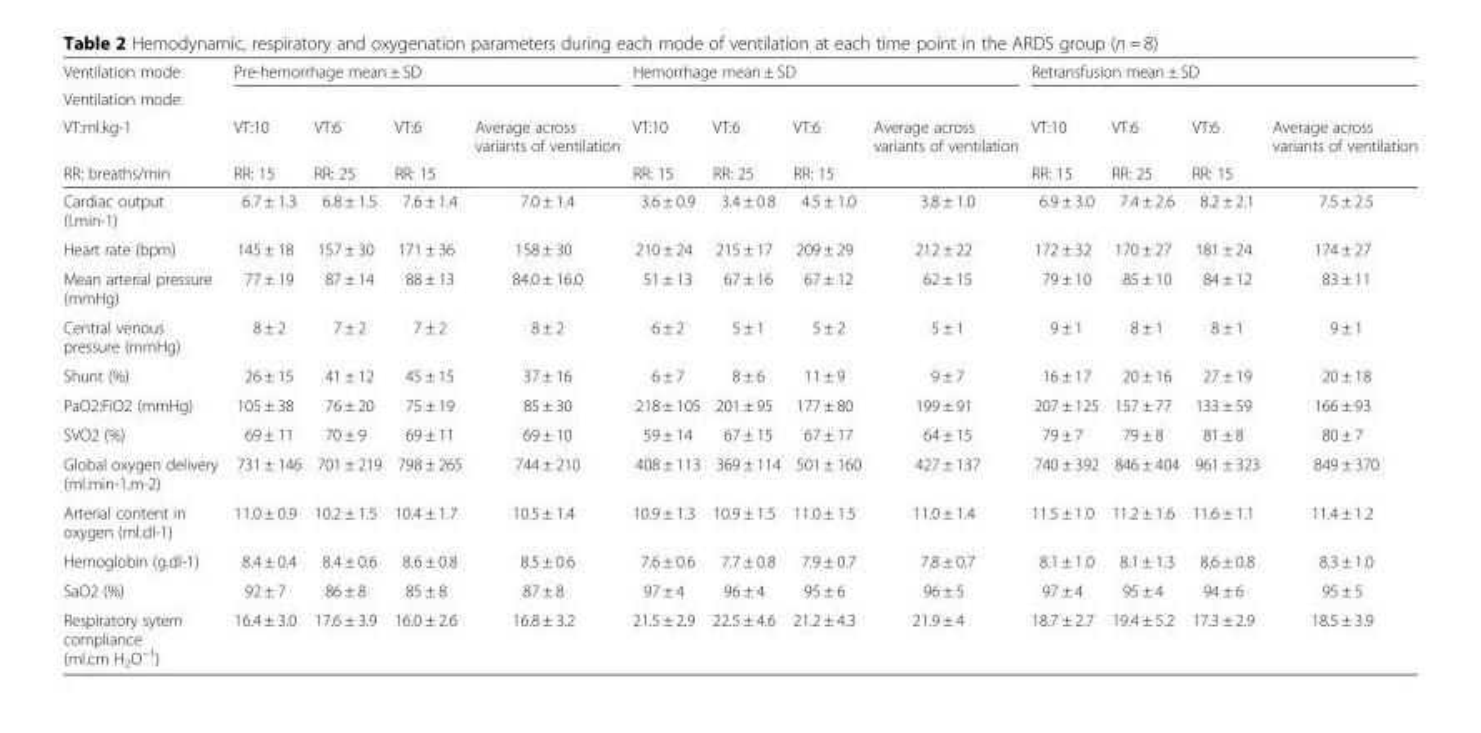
<table><thead><tr><td rowspan="4">Ventilation mode Ventilation mode: VT:ml.kg-1 RR: breaths/min</td><td colspan="4">Pre-hemorrhage mean ± SD</td><td colspan="4">Hemorrhage mean ± SD</td><td colspan="4">Retransfusion mean ± SD</td></tr><tr><td rowspan="3">VT:10 RR: 15</td><td rowspan="3">VT:6 RR: 25</td><td rowspan="3">VT:6 RR: 15</td><td rowspan="3">Average across variants of ventilation</td><td rowspan="3">VT:10 RR: 15</td><td rowspan="3">VT:6 RR: 25</td><td rowspan="3">VT:6 RR: 15</td><td rowspan="3">Average across variants of ventilation</td><td rowspan="3">VT:10 RR: 15</td><td rowspan="3">VT:6 RR: 25</td><td rowspan="3">VT:6 RR: 15</td><td rowspan="3">Average across variants of ventilation</td></tr><tr></tr><tr></tr></thead><tbody><tr><td>Cardiac output (l.min-1)</td><td>6.7 ± 1.3</td><td>6.8 ± 1.5</td><td>7.6 ± 1.4</td><td>7.0 ± 1.4</td><td>3.6 ± 0.9</td><td>3.4 ± 0.8</td><td>4.5 ± 1.0</td><td>3.8 ± 1.0</td><td>6.9 ± 3.0</td><td>7.4 ± 2.6</td><td>8.2 ± 2.1</td><td>7.5 ± 2.5</td></tr><tr><td>Heart rate (bpm)</td><td>145 ± 18</td><td>157 ± 30</td><td>171 ± 36</td><td>158 ± 30</td><td>210 ± 24</td><td>215 ± 17</td><td>209 ± 29</td><td>212 ± 22</td><td>172 ± 32</td><td>170 ± 27</td><td>181 ± 24</td><td>174 ± 27</td></tr><tr><td>Mean arterial pressure (mmHg)</td><td>77 ± 19</td><td>87 ± 14</td><td>88 ± 13</td><td>84.0 ± 16.0</td><td>51 ± 13</td><td>67 ± 16</td><td>67 ± 12</td><td>62 ± 15</td><td>79 ± 10</td><td>85 ± 10</td><td>84 ± 12</td><td>83 ± 11</td></tr><tr><td>Central venous pressure (mmHg)</td><td>8 ± 2</td><td>7 ± 2</td><td>7 ± 2</td><td>8 ± 2</td><td>6 ± 2</td><td>5 ± 1</td><td>5 ± 2</td><td>5 ± 1</td><td>9 ± 1</td><td>8 ± 1</td><td>8 ± 1</td><td>9 ± 1</td></tr><tr><td>Shunt (%)</td><td>26 ± 15</td><td>41 ± 12</td><td>45 ± 15</td><td>37 ± 16</td><td>6 ± 7</td><td>8 ± 6</td><td>11 ± 9</td><td>9 ± 7</td><td>16 ± 17</td><td>20 ± 16</td><td>27 ± 19</td><td>20 ± 18</td></tr><tr><td>PaO2:FiO2 (mmHg)</td><td>105 ± 38</td><td>76 ± 20</td><td>75 ± 19</td><td>85 ± 30</td><td>218 ± 105</td><td>201 ± 95</td><td>177 ± 80</td><td>199 ± 91</td><td>207 ± 125</td><td>157 ± 77</td><td>133 ± 59</td><td>166 ± 93</td></tr><tr><td>SVO2 (%)</td><td>69 ± 11</td><td>70 ± 9</td><td>69 ± 11</td><td>69 ± 10</td><td>59 ± 14</td><td>67 ± 15</td><td>67 ± 17</td><td>64 ± 15</td><td>79 ± 7</td><td>79 ± 8</td><td>81 ± 8</td><td>80 ± 7</td></tr><tr><td>Global oxygen delivery (ml.min-1.m-2)</td><td>731 ± 146</td><td>701 ± 219</td><td>798 ± 265</td><td>744 ± 210</td><td>408 ± 113</td><td>369 ± 114</td><td>501 ± 160</td><td>427 ± 137</td><td>740 ± 392</td><td>846 ± 404</td><td>961 ± 323</td><td>849 ± 370</td></tr><tr><td>Arterial content in oxygen (ml.dl-1)</td><td>11.0 ± 0.9</td><td>10.2 ± 1.5</td><td>10.4 ± 1.7</td><td>10.5 ± 1.4</td><td>10.9 ± 1.3</td><td>10.9 ± 1.5</td><td>11.0 ± 1.5</td><td>11.0 ± 1.4</td><td>11.5 ± 1.0</td><td>11.2 ± 1.6</td><td>11.6 ± 1.1</td><td>11.4 ± 1.2</td></tr><tr><td>Hemoglobin (g.dl-1)</td><td>8.4 ± 0.4</td><td>8.4 ± 0.6</td><td>8.6 ± 0.8</td><td>8.5 ± 0.6</td><td>7.6 ± 0.6</td><td>7.7 ± 0.8</td><td>7.9 ± 0.7</td><td>7.8 ± 0.7</td><td>8.1 ± 1.0</td><td>8.1 ± 1.3</td><td>8.6 ± 0.8</td><td>8.3 ± 1.0</td></tr><tr><td>SaO2 (%)</td><td>92 ± 7</td><td>86 ± 8</td><td>85 ± 8</td><td>87 ± 8</td><td>97 ± 4</td><td>96 ± 4</td><td>95 ± 6</td><td>96 ± 5</td><td>97 ± 4</td><td>95 ± 4</td><td>94 ± 6</td><td>95 ± 5</td></tr><tr><td>Respiratory sytem compliance (ml.cm H<sub>2</sub>O<sup>−1</sup>)</td><td>16.4 ± 3.0</td><td>17.6 ± 3.9</td><td>16.0 ± 2.6</td><td>16.8 ± 3.2</td><td>21.5 ± 2.9</td><td>22.5 ± 4.6</td><td>21.2 ± 4.3</td><td>21.9 ± 4</td><td>18.7 ± 2.7</td><td>19.4 ± 5.2</td><td>17.3 ± 2.9</td><td>18.5 ± 3.9</td></tr></tbody></table>